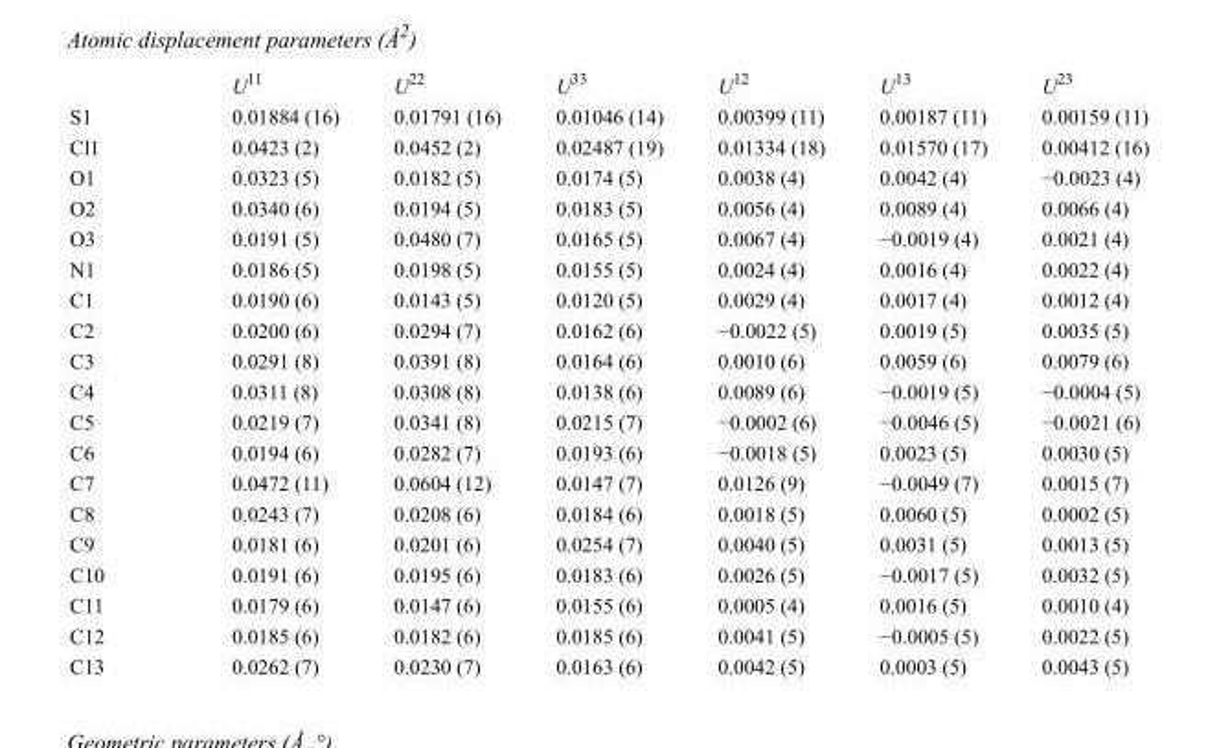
<table><thead><tr><td></td><td>U<sup>11</sup></td><td>U<sup>22</sup></td><td>U<sup>33</sup></td><td>U<sup>12</sup></td><td>U<sup>13</sup></td><td>U<sup>23</sup></td></tr></thead><tbody><tr><td>S1</td><td>0.01884 (16)</td><td>0.01791 (16)</td><td>0.01046 (14)</td><td>0.00399 (11)</td><td>0.00187 (11)</td><td>0.00159 (11)</td></tr><tr><td>Cl1</td><td>0.0423 (2)</td><td>0.0452 (2)</td><td>0.02487 (19)</td><td>0.01334 (18)</td><td>0.01570 (17)</td><td>0.00412 (16)</td></tr><tr><td>O1</td><td>0.0323 (5)</td><td>0.0182 (5)</td><td>0.0174 (5)</td><td>0.0038 (4)</td><td>0.0042 (4)</td><td>−0.0023 (4)</td></tr><tr><td>O2</td><td>0.0340 (6)</td><td>0.0194 (5)</td><td>0.0183 (5)</td><td>0.0056 (4)</td><td>0.0089 (4)</td><td>0.0066 (4)</td></tr><tr><td>O3</td><td>0.0191 (5)</td><td>0.0480 (7)</td><td>0.0165 (5)</td><td>0.0067 (4)</td><td>−0.0019 (4)</td><td>0.0021 (4)</td></tr><tr><td>N1</td><td>0.0186 (5)</td><td>0.0198 (5)</td><td>0.0155 (5)</td><td>0.0024 (4)</td><td>0.0016 (4)</td><td>0.0022 (4)</td></tr><tr><td>C1</td><td>0.0190 (6)</td><td>0.0143 (5)</td><td>0.0120 (5)</td><td>0.0029 (4)</td><td>0.0017 (4)</td><td>0.0012 (4)</td></tr><tr><td>C2</td><td>0.0200 (6)</td><td>0.0294 (7)</td><td>0.0162 (6)</td><td>−0.0022 (5)</td><td>0.0019 (5)</td><td>0.0035 (5)</td></tr><tr><td>C3</td><td>0.0291 (8)</td><td>0.0391 (8)</td><td>0.0164 (6)</td><td>0.0010 (6)</td><td>0.0059 (6)</td><td>0.0079 (6)</td></tr><tr><td>C4</td><td>0.0311 (8)</td><td>0.0308 (8)</td><td>0.0138 (6)</td><td>0.0089 (6)</td><td>−0.0019 (5)</td><td>−0.0004 (5)</td></tr><tr><td>C5</td><td>0.0219 (7)</td><td>0.0341 (8)</td><td>0.0215 (7)</td><td>−0.0002 (6)</td><td>−0.0046 (5)</td><td>−0.0021 (6)</td></tr><tr><td>C6</td><td>0.0194 (6)</td><td>0.0282 (7)</td><td>0.0193 (6)</td><td>−0.0018 (5)</td><td>0.0023 (5)</td><td>0.0030 (5)</td></tr><tr><td>C7</td><td>0.0472 (11)</td><td>0.0604 (12)</td><td>0.0147 (7)</td><td>0.0126 (9)</td><td>−0.0049 (7)</td><td>0.0015 (7)</td></tr><tr><td>C8</td><td>0.0243 (7)</td><td>0.0208 (6)</td><td>0.0184 (6)</td><td>0.0018 (5)</td><td>0.0060 (5)</td><td>0.0002 (5)</td></tr><tr><td>C9</td><td>0.0181 (6)</td><td>0.0201 (6)</td><td>0.0254 (7)</td><td>0.0040 (5)</td><td>0.0031 (5)</td><td>0.0013 (5)</td></tr><tr><td>C10</td><td>0.0191 (6)</td><td>0.0195 (6)</td><td>0.0183 (6)</td><td>0.0026 (5)</td><td>−0.0017 (5)</td><td>0.0032 (5)</td></tr><tr><td>C11</td><td>0.0179 (6)</td><td>0.0147 (6)</td><td>0.0155 (6)</td><td>0.0005 (4)</td><td>0.0016 (5)</td><td>0.0010 (4)</td></tr><tr><td>C12</td><td>0.0185 (6)</td><td>0.0182 (6)</td><td>0.0185 (6)</td><td>0.0041 (5)</td><td>−0.0005 (5)</td><td>0.0022 (5)</td></tr><tr><td>C13</td><td>0.0262 (7)</td><td>0.0230 (7)</td><td>0.0163 (6)</td><td>0.0042 (5)</td><td>0.0003 (5)</td><td>0.0043 (5)</td></tr></tbody></table>